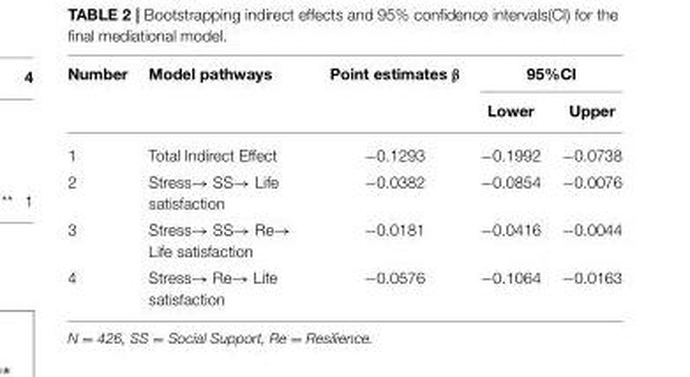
<table><thead><tr><td rowspan="2">Number</td><td rowspan="2">Model pathways</td><td rowspan="2">Point estimates β</td><td colspan="2">95%CI</td></tr><tr><td>Lower</td><td>Upper</td></tr></thead><tbody><tr><td>1</td><td>Total Indirect Effect</td><td>−0.1293</td><td>−0.1992</td><td>−0.0738</td></tr><tr><td>2</td><td>Stress→ SS→ Life satisfaction</td><td>−0.0382</td><td>−0.0854</td><td>−0.0076</td></tr><tr><td>3</td><td>Stress→ SS→ Re→ Life satisfaction</td><td>−0.0181</td><td>−0.0416</td><td>−0.0044</td></tr><tr><td>4</td><td>Stress→ Re→ Life satisfaction</td><td>−0.0576</td><td>−0.1064</td><td>−0.0163</td></tr></tbody></table>